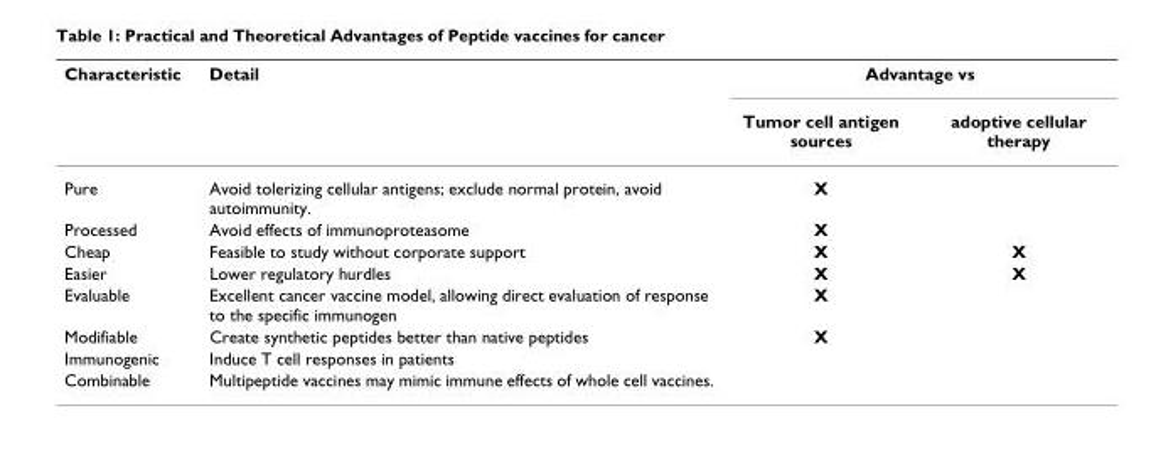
<table><thead><tr><td rowspan="2">Characteristic</td><td rowspan="2">Detail</td><td colspan="2">Advantage vs</td></tr><tr><td>Tumor cell antigen sources</td><td>adoptive cellular therapy</td></tr></thead><tbody><tr><td>Pure</td><td>Avoid tolerizing cellular antigens; exclude normal protein, avoid autoimmunity.</td><td>X</td><td></td></tr><tr><td>Processed</td><td>Avoid effects of immunoproteasome</td><td>X</td><td></td></tr><tr><td>Cheap</td><td>Feasible to study without corporate support</td><td>X</td><td>X</td></tr><tr><td>Easier</td><td>Lower regulatory hurdles</td><td>X</td><td>X</td></tr><tr><td>Evaluable</td><td>Excellent cancer vaccine model, allowing direct evaluation of response to the specific immunogen</td><td>X</td><td></td></tr><tr><td>Modifiable</td><td>Create synthetic peptides better than native peptides</td><td>X</td><td></td></tr><tr><td>Immunogenic</td><td>Induce T cell responses in patients</td><td></td><td></td></tr><tr><td>Combinable</td><td>Multipeptide vaccines may mimic immune effects of whole cell vaccines.</td><td></td><td></td></tr></tbody></table>